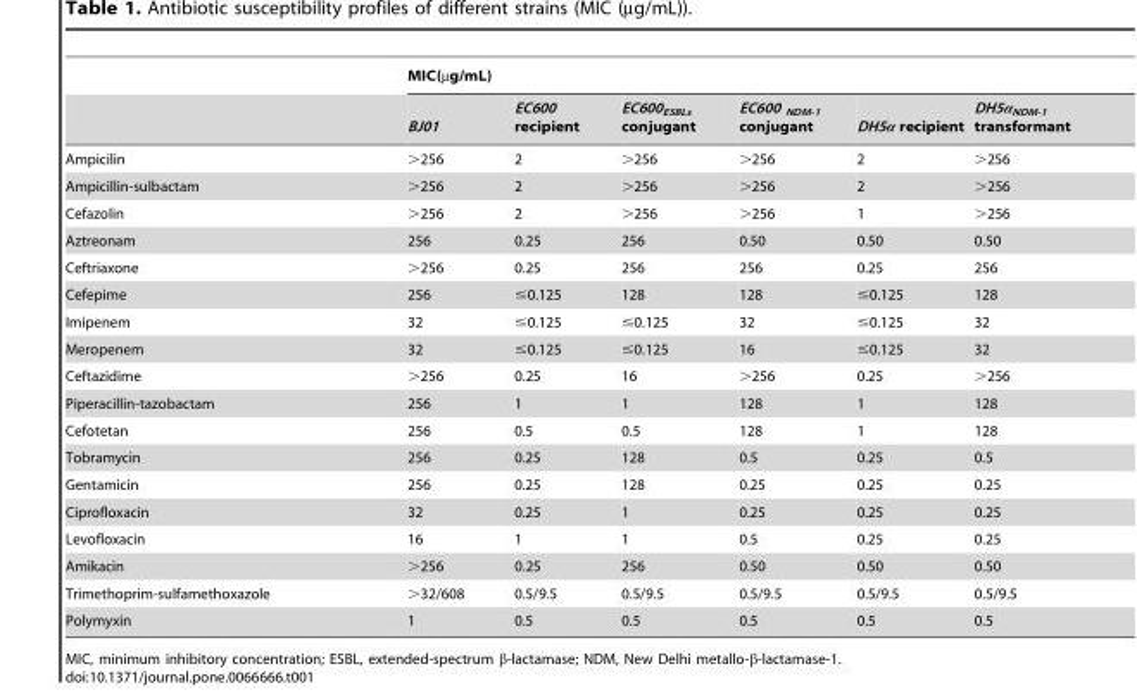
<table><thead><tr><td rowspan="2"></td><td colspan="6">MIC(µg/mL)</td></tr><tr><td>BJ01</td><td>EC600 recipient</td><td>EC600<sub>ESBLs</sub> conjugant</td><td>EC600 <sub>NDM-1</sub> conjugant</td><td>DH5α recipient</td><td>DH5α<sub>NDM-1</sub> transformant</td></tr></thead><tbody><tr><td>Ampicilin</td><td>&gt;256</td><td>2</td><td>&gt;256</td><td>&gt;256</td><td>2</td><td>&gt;256</td></tr><tr><td>Ampicillin-sulbactam</td><td>&gt;256</td><td>2</td><td>&gt;256</td><td>&gt;256</td><td>2</td><td>&gt;256</td></tr><tr><td>Cefazolin</td><td>&gt;256</td><td>2</td><td>&gt;256</td><td>&gt;256</td><td>1</td><td>&gt;256</td></tr><tr><td>Aztreonam</td><td>256</td><td>0.25</td><td>256</td><td>0.50</td><td>0.50</td><td>0.50</td></tr><tr><td>Ceftriaxone</td><td>&gt;256</td><td>0.25</td><td>256</td><td>256</td><td>0.25</td><td>256</td></tr><tr><td>Cefepime</td><td>256</td><td>≤0.125</td><td>128</td><td>128</td><td>≤0.125</td><td>128</td></tr><tr><td>Imipenem</td><td>32</td><td>≤0.125</td><td>≤0.125</td><td>32</td><td>≤0.125</td><td>32</td></tr><tr><td>Meropenem</td><td>32</td><td>≤0.125</td><td>≤0.125</td><td>16</td><td>≤0.125</td><td>32</td></tr><tr><td>Ceftazidime</td><td>&gt;256</td><td>0.25</td><td>16</td><td>&gt;256</td><td>0.25</td><td>&gt;256</td></tr><tr><td>Piperacillin-tazobactam</td><td>256</td><td>1</td><td>1</td><td>128</td><td>1</td><td>128</td></tr><tr><td>Cefotetan</td><td>256</td><td>0.5</td><td>0.5</td><td>128</td><td>1</td><td>128</td></tr><tr><td>Tobramycin</td><td>256</td><td>0.25</td><td>128</td><td>0.5</td><td>0.25</td><td>0.5</td></tr><tr><td>Gentamicin</td><td>256</td><td>0.25</td><td>128</td><td>0.25</td><td>0.25</td><td>0.25</td></tr><tr><td>Ciprofloxacin</td><td>32</td><td>0.25</td><td>1</td><td>0.25</td><td>0.25</td><td>0.25</td></tr><tr><td>Levofloxacin</td><td>16</td><td>1</td><td>1</td><td>0.5</td><td>0.25</td><td>0.25</td></tr><tr><td>Amikacin</td><td>&gt;256</td><td>0.25</td><td>256</td><td>0.50</td><td>0.50</td><td>0.50</td></tr><tr><td>Trimethoprim-sulfamethoxazole</td><td>&gt;32/608</td><td>0.5/9.5</td><td>0.5/9.5</td><td>0.5/9.5</td><td>0.5/9.5</td><td>0.5/9.5</td></tr><tr><td>Polymyxin</td><td>1</td><td>0.5</td><td>0.5</td><td>0.5</td><td>0.5</td><td>0.5</td></tr></tbody></table>